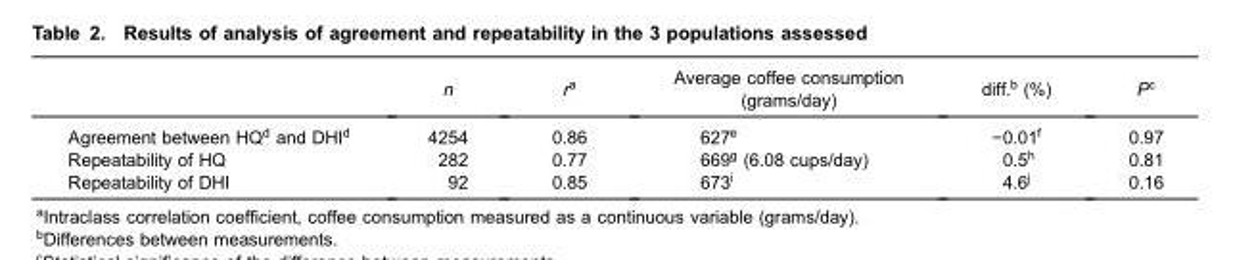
<table><thead><tr><td></td><td>n</td><td>r<sup>a</sup></td><td>Average coffee consumption (grams/day)</td><td>diff.<sup>b</sup> (%)</td><td>P<sup>c</sup></td></tr></thead><tbody><tr><td>Agreement between HQ<sup>d</sup> and DHI<sup>d</sup></td><td>4254</td><td>0.86</td><td>627<sup>e</sup></td><td>−0.01<sup>f</sup></td><td>0.97</td></tr><tr><td>Repeatability of HQ</td><td>282</td><td>0.77</td><td>669<sup>g</sup> (6.08 cups/day)</td><td>0.5<sup>h</sup></td><td>0.81</td></tr><tr><td>Repeatability of DHI</td><td>92</td><td>0.85</td><td>673<sup>i</sup></td><td>4.6<sup>j</sup></td><td>0.16</td></tr></tbody></table>